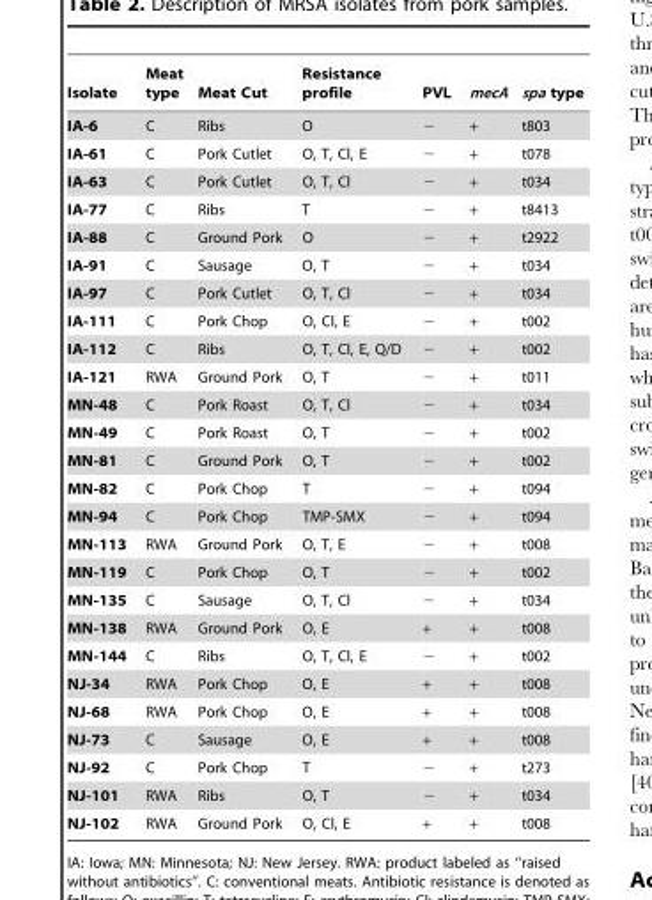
<table><thead><tr><td>Isolate</td><td>Meat type</td><td>Meat Cut</td><td>Resistance profile</td><td>PVL</td><td>mecA</td><td>spa type</td></tr></thead><tbody><tr><td>IA-6</td><td>C</td><td>Ribs</td><td>O</td><td>−</td><td>+</td><td>t803</td></tr><tr><td>IA-61</td><td>C</td><td>Pork Cutlet</td><td>O, T, Cl, E</td><td>−</td><td>+</td><td>t078</td></tr><tr><td>IA-63</td><td>C</td><td>Pork Cutlet</td><td>O, T, Cl</td><td>−</td><td>+</td><td>t034</td></tr><tr><td>IA-77</td><td>C</td><td>Ribs</td><td>T</td><td>−</td><td>+</td><td>t8413</td></tr><tr><td>IA-88</td><td>C</td><td>Ground Pork</td><td>O</td><td>−</td><td>+</td><td>t2922</td></tr><tr><td>IA-91</td><td>C</td><td>Sausage</td><td>O, T</td><td>−</td><td>+</td><td>t034</td></tr><tr><td>IA-97</td><td>C</td><td>Pork Cutlet</td><td>O, T, Cl</td><td>−</td><td>+</td><td>t034</td></tr><tr><td>IA-111</td><td>C</td><td>Pork Chop</td><td>O, Cl, E</td><td>−</td><td>+</td><td>t002</td></tr><tr><td>IA-112</td><td>C</td><td>Ribs</td><td>O, T, Cl, E, Q/D</td><td>−</td><td>+</td><td>t002</td></tr><tr><td>IA-121</td><td>RWA</td><td>Ground Pork</td><td>O, T</td><td>−</td><td>+</td><td>t011</td></tr><tr><td>MN-48</td><td>C</td><td>Pork Roast</td><td>O, T, Cl</td><td>−</td><td>+</td><td>t034</td></tr><tr><td>MN-49</td><td>C</td><td>Pork Roast</td><td>O, T</td><td>−</td><td>+</td><td>t002</td></tr><tr><td>MN-81</td><td>C</td><td>Ground Pork</td><td>O, T</td><td>−</td><td>+</td><td>t002</td></tr><tr><td>MN-82</td><td>C</td><td>Pork Chop</td><td>T</td><td>−</td><td>+</td><td>t094</td></tr><tr><td>MN-94</td><td>C</td><td>Pork Chop</td><td>TMP-SMX</td><td>−</td><td>+</td><td>t094</td></tr><tr><td>MN-113</td><td>RWA</td><td>Ground Pork</td><td>O, T, E</td><td>−</td><td>+</td><td>t008</td></tr><tr><td>MN-119</td><td>C</td><td>Pork Chop</td><td>O, T</td><td>−</td><td>+</td><td>t002</td></tr><tr><td>MN-135</td><td>C</td><td>Sausage</td><td>O, T, Cl</td><td>−</td><td>+</td><td>t034</td></tr><tr><td>MN-138</td><td>RWA</td><td>Ground Pork</td><td>O, E</td><td>+</td><td>+</td><td>t008</td></tr><tr><td>MN-144</td><td>C</td><td>Ribs</td><td>O, T, Cl, E</td><td>−</td><td>+</td><td>t002</td></tr><tr><td>NJ-34</td><td>RWA</td><td>Pork Chop</td><td>O, E</td><td>+</td><td>+</td><td>t008</td></tr><tr><td>NJ-68</td><td>RWA</td><td>Pork Chop</td><td>O, E</td><td>+</td><td>+</td><td>t008</td></tr><tr><td>NJ-73</td><td>C</td><td>Sausage</td><td>O, E</td><td>+</td><td>+</td><td>t008</td></tr><tr><td>NJ-92</td><td>C</td><td>Pork Chop</td><td>T</td><td>−</td><td>+</td><td>t273</td></tr><tr><td>NJ-101</td><td>RWA</td><td>Ribs</td><td>O, T</td><td>−</td><td>+</td><td>t034</td></tr><tr><td>NJ-102</td><td>RWA</td><td>Ground Pork</td><td>O, Cl, E</td><td>+</td><td>+</td><td>t008</td></tr></tbody></table>